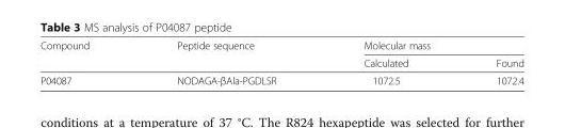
<table><thead><tr><td rowspan="2">Compound</td><td rowspan="2">Peptide sequence</td><td colspan="2">Molecular mass</td></tr><tr><td>Calculated</td><td>Found</td></tr></thead><tbody><tr><td>P04087</td><td>NODAGA-βAla-PGDLSR</td><td>1072.5</td><td>1072.4</td></tr></tbody></table>